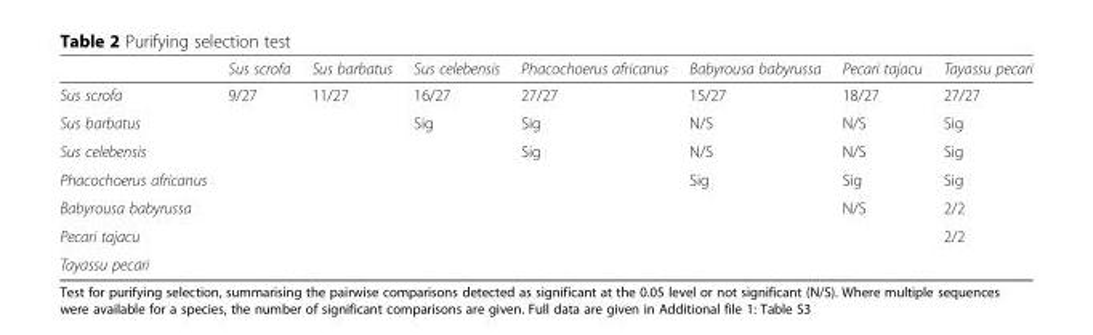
<table><thead><tr><td></td><td>Sus scrofa</td><td>Sus barbatus</td><td>Sus celebensis</td><td>Phacochoerus africanus</td><td>Babyrousa babyrussa</td><td>Pecari tajacu</td><td>Tayassu pecari</td></tr></thead><tbody><tr><td>Sus scrofa</td><td>9/27</td><td>11/27</td><td>16/27</td><td>27/27</td><td>15/27</td><td>18/27</td><td>27/27</td></tr><tr><td>Sus barbatus</td><td></td><td></td><td>Sig</td><td>Sig</td><td>N/S</td><td>N/S</td><td>Sig</td></tr><tr><td>Sus celebensis</td><td></td><td></td><td></td><td>Sig</td><td>N/S</td><td>N/S</td><td>Sig</td></tr><tr><td>Phacochoerus africanus</td><td></td><td></td><td></td><td></td><td>Sig</td><td>Sig</td><td>Sig</td></tr><tr><td>Babyrousa babyrussa</td><td></td><td></td><td></td><td></td><td></td><td>N/S</td><td>2/2</td></tr><tr><td>Pecari tajacu</td><td></td><td></td><td></td><td></td><td></td><td></td><td>2/2</td></tr><tr><td>Tayassu pecari</td><td></td><td></td><td></td><td></td><td></td><td></td><td></td></tr></tbody></table>